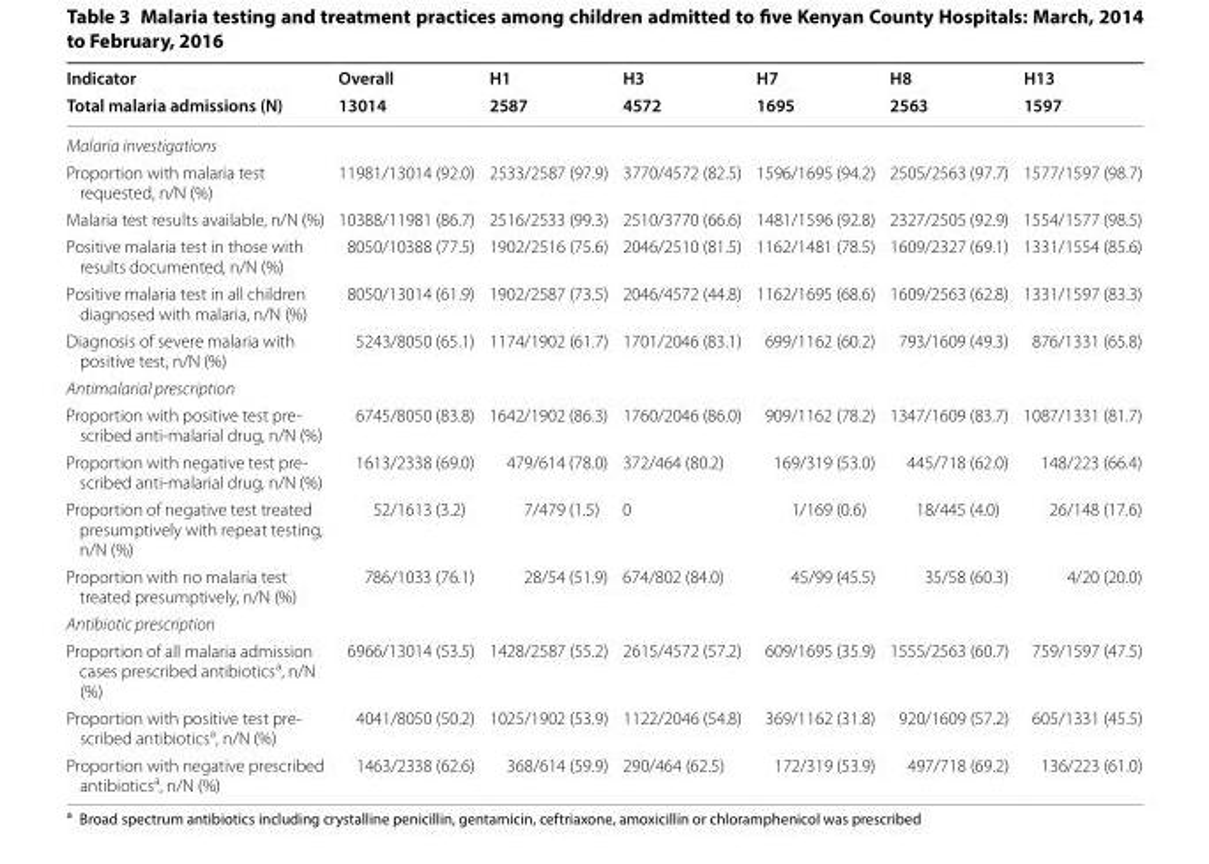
<table><thead><tr><td rowspan="2">Indicator Total malaria admissions (N)</td><td rowspan="2">Overall 13014</td><td rowspan="2">H1 2587</td><td rowspan="2">H3 4572</td><td rowspan="2">H7 1695</td><td rowspan="2">H8 2563</td><td rowspan="2">H13 1597</td></tr><tr></tr></thead><tbody><tr><td colspan="7">Malaria investigations</td></tr><tr><td>Proportion with malaria test requested, n/N (%)</td><td>11981/13014 (92.0)</td><td>2533/2587 (97.9)</td><td>3770/4572 (82.5)</td><td>1596/1695 (94.2)</td><td>2505/2563 (97.7)</td><td>1577/1597 (98.7)</td></tr><tr><td>Malaria test results available, n/N (%)</td><td>10388/11981 (86.7)</td><td>2516/2533 (99.3)</td><td>2510/3770 (66.6)</td><td>1481/1596 (92.8)</td><td>2327/2505 (92.9)</td><td>1554/1577 (98.5)</td></tr><tr><td>Positive malaria test in those with results documented, n/N (%)</td><td>8050/10388 (77.5)</td><td>1902/2516 (75.6)</td><td>2046/2510 (81.5)</td><td>1162/1481 (78.5)</td><td>1609/2327 (69.1)</td><td>1331/1554 (85.6)</td></tr><tr><td>Positive malaria test in all children diagnosed with malaria, n/N (%)</td><td>8050/13014 (61.9)</td><td>1902/2587 (73.5)</td><td>2046/4572 (44.8)</td><td>1162/1695 (68.6)</td><td>1609/2563 (62.8)</td><td>1331/1597 (83.3)</td></tr><tr><td>Diagnosis of severe malaria with positive test, n/N (%)</td><td>5243/8050 (65.1)</td><td>1174/1902 (61.7)</td><td>1701/2046 (83.1)</td><td>699/1162 (60.2)</td><td>793/1609 (49.3)</td><td>876/1331 (65.8)</td></tr><tr><td colspan="7">Antimalarial prescription</td></tr><tr><td>Proportion with positive test pre- scribed anti-malarial drug, n/N (%)</td><td>6745/8050 (83.8)</td><td>1642/1902 (86.3)</td><td>1760/2046 (86.0)</td><td>909/1162 (78.2)</td><td>1347/1609 (83.7)</td><td>1087/1331 (81.7)</td></tr><tr><td>Proportion with negative test pre- scribed anti-malarial drug, n/N (%)</td><td>1613/2338 (69.0)</td><td>479/614 (78.0)</td><td>372/464 (80.2)</td><td>169/319 (53.0)</td><td>445/718 (62.0)</td><td>148/223 (66.4)</td></tr><tr><td>Proportion of negative test treated presumptively with repeat testing, n/N (%)</td><td>52/1613 (3.2)</td><td>7/479 (1.5)</td><td>0</td><td>1/169 (0.6)</td><td>18/445 (4.0)</td><td>26/148 (17.6)</td></tr><tr><td>Proportion with no malaria test treated presumptively, n/N (%)</td><td>786/1033 (76.1)</td><td>28/54 (51.9)</td><td>674/802 (84.0)</td><td>45/99 (45.5)</td><td>35/58 (60.3)</td><td>4/20 (20.0)</td></tr><tr><td colspan="7">Antibiotic prescription</td></tr><tr><td>Proportion of all malaria admission cases prescribed antibiotics<sup>a</sup>, n/N (%)</td><td>6966/13014 (53.5)</td><td>1428/2587 (55.2)</td><td>2615/4572 (57.2)</td><td>609/1695 (35.9)</td><td>1555/2563 (60.7)</td><td>759/1597 (47.5)</td></tr><tr><td>Proportion with positive test pre- scribed antibioticsa, n/N (%)</td><td>4041/8050 (50.2)</td><td>1025/1902 (53.9)</td><td>1122/2046 (54.8)</td><td>369/1162 (31.8)</td><td>920/1609 (57.2)</td><td>605/1331 (45.5)</td></tr><tr><td>Proportion with negative prescribed antibiotics<sup>a</sup>, n/N (%)</td><td>1463/2338 (62.6)</td><td>368/614 (59.9)</td><td>290/464 (62.5)</td><td>172/319 (53.9)</td><td>497/718 (69.2)</td><td>136/223 (61.0)</td></tr></tbody></table>